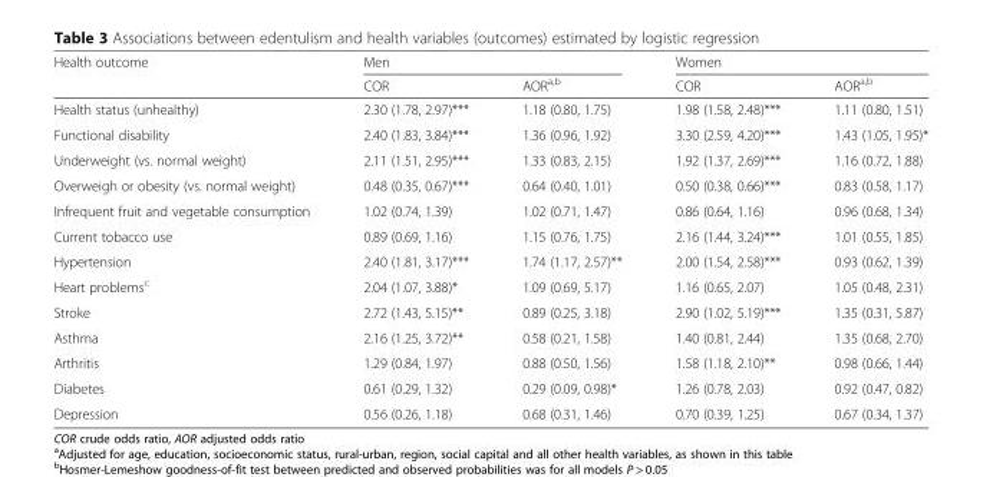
<table><thead><tr><td rowspan="2">Health outcome</td><td colspan="2">Men</td><td colspan="2">Women</td></tr><tr><td>COR</td><td>AOR<sup>a,b</sup></td><td>COR</td><td>AOR<sup>a,b</sup></td></tr></thead><tbody><tr><td>Health status (unhealthy)</td><td>2.30 (1.78, 2.97)***</td><td>1.18 (0.80, 1.75)</td><td>1.98 (1.58, 2.48)***</td><td>1.11 (0.80, 1.51)</td></tr><tr><td>Functional disability</td><td>2.40 (1.83, 3.84)***</td><td>1.36 (0.96, 1.92)</td><td>3.30 (2.59, 4.20)***</td><td>1.43 (1.05, 1.95)*</td></tr><tr><td>Underweight (vs. normal weight)</td><td>2.11 (1.51, 2.95)***</td><td>1.33 (0.83, 2.15)</td><td>1.92 (1.37, 2.69)***</td><td>1.16 (0.72, 1.88)</td></tr><tr><td>Overweigh or obesity (vs. normal weight)</td><td>0.48 (0.35, 0.67)***</td><td>0.64 (0.40, 1.01)</td><td>0.50 (0.38, 0.66)***</td><td>0.83 (0.58, 1.17)</td></tr><tr><td>Infrequent fruit and vegetable consumption</td><td>1.02 (0.74, 1.39)</td><td>1.02 (0.71, 1.47)</td><td>0.86 (0.64, 1.16)</td><td>0.96 (0.68, 1.34)</td></tr><tr><td>Current tobacco use</td><td>0.89 (0.69, 1.16)</td><td>1.15 (0.76, 1.75)</td><td>2.16 (1.44, 3.24)***</td><td>1.01 (0.55, 1.85)</td></tr><tr><td>Hypertension</td><td>2.40 (1.81, 3.17)***</td><td>1.74 (1.17, 2.57)**</td><td>2.00 (1.54, 2.58)***</td><td>0.93 (0.62, 1.39)</td></tr><tr><td>Heart problems<sup>c</sup></td><td>2.04 (1.07, 3.88)*</td><td>1.09 (0.69, 5.17)</td><td>1.16 (0.65, 2.07)</td><td>1.05 (0.48, 2.31)</td></tr><tr><td>Stroke</td><td>2.72 (1.43, 5.15)**</td><td>0.89 (0.25, 3.18)</td><td>2.90 (1.02, 5.19)***</td><td>1.35 (0.31, 5.87)</td></tr><tr><td>Asthma</td><td>2.16 (1.25, 3.72)**</td><td>0.58 (0.21, 1.58)</td><td>1.40 (0.81, 2.44)</td><td>1.35 (0.68, 2.70)</td></tr><tr><td>Arthritis</td><td>1.29 (0.84, 1.97)</td><td>0.88 (0.50, 1.56)</td><td>1.58 (1.18, 2.10)**</td><td>0.98 (0.66, 1.44)</td></tr><tr><td>Diabetes</td><td>0.61 (0.29, 1.32)</td><td>0.29 (0.09, 0.98)*</td><td>1.26 (0.78, 2.03)</td><td>0.92 (0.47, 0.82)</td></tr><tr><td>Depression</td><td>0.56 (0.26, 1.18)</td><td>0.68 (0.31, 1.46)</td><td>0.70 (0.39, 1.25)</td><td>0.67 (0.34, 1.37)</td></tr></tbody></table>